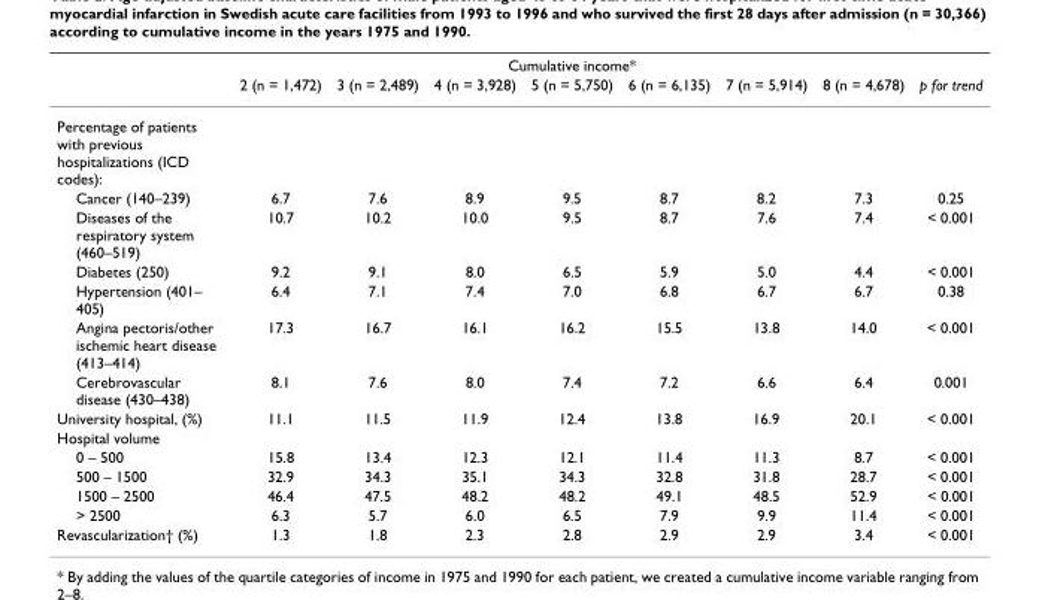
<table><thead><tr><td rowspan="2"></td><td colspan="7">Cumulative income*</td><td rowspan="2">p for trend</td></tr><tr><td>2 (n = 1,472)</td><td>3 (n = 2,489)</td><td>4 (n = 3,928)</td><td>5 (n = 5,750)</td><td>6 (n = 6,135)</td><td>7 (n = 5,914)</td><td>8 (n = 4,678)</td></tr></thead><tbody><tr><td colspan="9">Percentage of patients with previous hospitalizations (ICD codes):</td></tr><tr><td>Cancer (140–239)</td><td>6.7</td><td>7.6</td><td>8.9</td><td>9.5</td><td>8.7</td><td>8.2</td><td>7.3</td><td>0.25</td></tr><tr><td>Diseases of the respiratory system (460–519)</td><td>10.7</td><td>10.2</td><td>10.0</td><td>9.5</td><td>8.7</td><td>7.6</td><td>7.4</td><td>&lt; 0.001</td></tr><tr><td>Diabetes (250)</td><td>9.2</td><td>9.1</td><td>8.0</td><td>6.5</td><td>5.9</td><td>5.0</td><td>4.4</td><td>&lt; 0.001</td></tr><tr><td>Hypertension (401– 405)</td><td>6.4</td><td>7.1</td><td>7.4</td><td>7.0</td><td>6.8</td><td>6.7</td><td>6.7</td><td>0.38</td></tr><tr><td>Angina pectoris/other ischemic heart disease (413–414)</td><td>17.3</td><td>16.7</td><td>16.1</td><td>16.2</td><td>15.5</td><td>13.8</td><td>14.0</td><td>&lt; 0.001</td></tr><tr><td>Cerebrovascular disease (430–438)</td><td>8.1</td><td>7.6</td><td>8.0</td><td>7.4</td><td>7.2</td><td>6.6</td><td>6.4</td><td>0.001</td></tr><tr><td>University hospital, (%)</td><td>11.1</td><td>11.5</td><td>11.9</td><td>12.4</td><td>13.8</td><td>16.9</td><td>20.1</td><td>&lt; 0.001</td></tr><tr><td colspan="9">Hospital volume</td></tr><tr><td>0 – 500</td><td>15.8</td><td>13.4</td><td>12.3</td><td>12.1</td><td>11.4</td><td>11.3</td><td>8.7</td><td>&lt; 0.001</td></tr><tr><td>500 – 1500</td><td>32.9</td><td>34.3</td><td>35.1</td><td>34.3</td><td>32.8</td><td>31.8</td><td>28.7</td><td>&lt; 0.001</td></tr><tr><td>1500 – 2500</td><td>46.4</td><td>47.5</td><td>48.2</td><td>48.2</td><td>49.1</td><td>48.5</td><td>52.9</td><td>&lt; 0.001</td></tr><tr><td>&gt; 2500</td><td>6.3</td><td>5.7</td><td>6.0</td><td>6.5</td><td>7.9</td><td>9.9</td><td>11.4</td><td>&lt; 0.001</td></tr><tr><td>Revascularization† (%)</td><td>1.3</td><td>1.8</td><td>2.3</td><td>2.8</td><td>2.9</td><td>2.9</td><td>3.4</td><td>&lt; 0.001</td></tr></tbody></table>